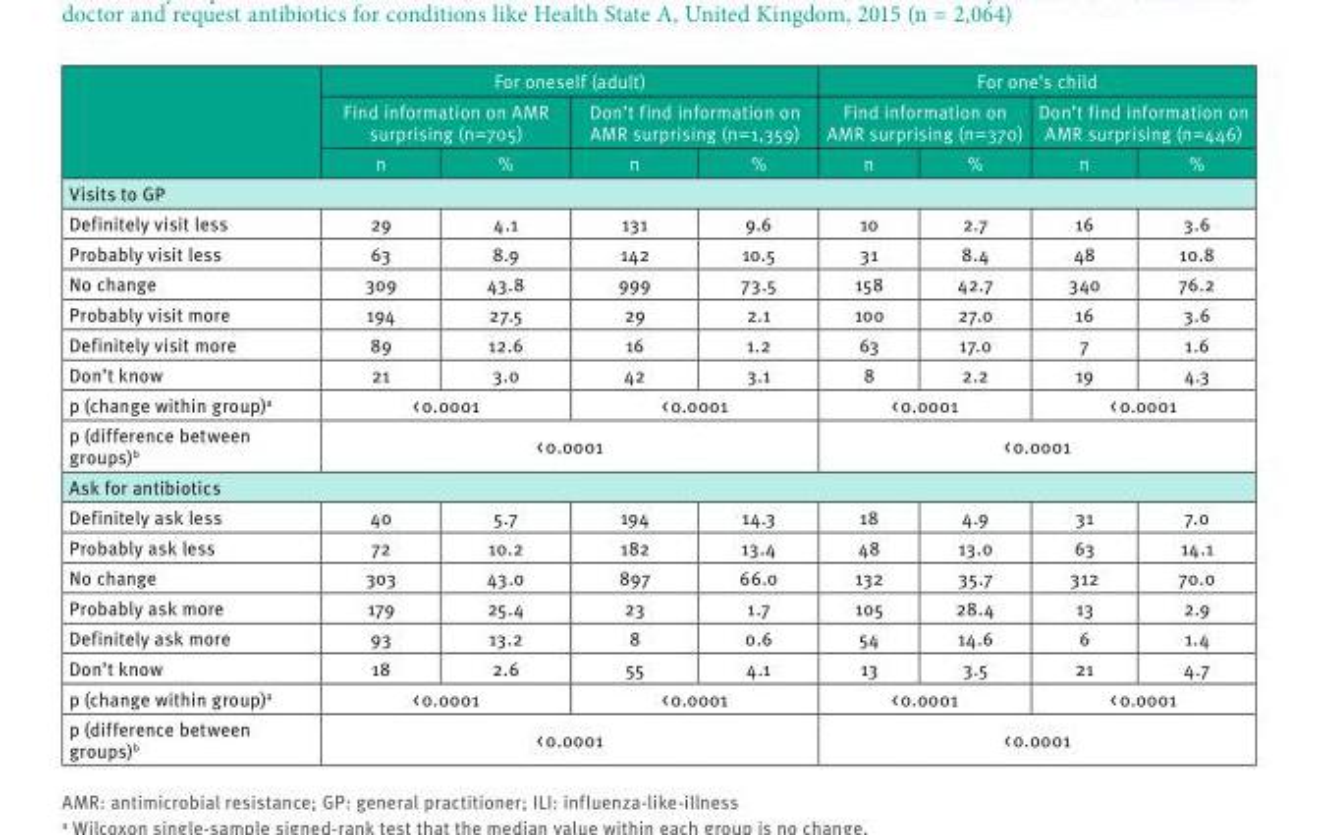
<table><thead><tr><td rowspan="3"></td><td colspan="4">For oneself (adult)</td><td colspan="4">For one’s child</td></tr><tr><td colspan="2">Find information on AMR surprising (n=705)</td><td colspan="2">Don’t find information on AMR surprising (n=1,359)</td><td colspan="2">Find information on AMR surprising (n=370)</td><td colspan="2">Don’t find information on AMR surprising (n=446)</td></tr><tr><td>n</td><td>%</td><td>n</td><td>%</td><td>n</td><td>%</td><td>n</td><td>%</td></tr></thead><tbody><tr><td colspan="9">Visits to GP</td></tr><tr><td>Definitely visit less</td><td>29</td><td>4.1</td><td>131</td><td>9.6</td><td>10</td><td>2.7</td><td>16</td><td>3.6</td></tr><tr><td>Probably visit less</td><td>63</td><td>8.9</td><td>142</td><td>10.5</td><td>31</td><td>8.4</td><td>48</td><td>10.8</td></tr><tr><td>No change</td><td>309</td><td>43.8</td><td>999</td><td>73.5</td><td>158</td><td>42.7</td><td>340</td><td>76.2</td></tr><tr><td>Probably visit more</td><td>194</td><td>27.5</td><td>29</td><td>2.1</td><td>100</td><td>27.0</td><td>16</td><td>3.6</td></tr><tr><td>Definitely visit more</td><td>89</td><td>12.6</td><td>16</td><td>1.2</td><td>63</td><td>17.0</td><td>7</td><td>1.6</td></tr><tr><td>Don’t know</td><td>21</td><td>3.0</td><td>42</td><td>3.1</td><td>8</td><td>2.2</td><td>19</td><td>4.3</td></tr><tr><td>p (change within group)<sup>a</sup></td><td colspan="2">&lt; 0.0001</td><td colspan="2">&lt; 0.0001</td><td colspan="2">&lt; 0.0001</td><td colspan="2">&lt; 0.0001</td></tr><tr><td>p (difference between groups)<sup>b</sup></td><td colspan="4">&lt; 0.0001</td><td colspan="4">&lt; 0.0001</td></tr><tr><td colspan="9">Ask for antibiotics</td></tr><tr><td>Definitely ask less</td><td>40</td><td>5.7</td><td>194</td><td>14.3</td><td>18</td><td>4.9</td><td>31</td><td>7.0</td></tr><tr><td>Probably ask less</td><td>72</td><td>10.2</td><td>182</td><td>13.4</td><td>48</td><td>13.0</td><td>63</td><td>14.1</td></tr><tr><td>No change</td><td>303</td><td>43.0</td><td>897</td><td>66.0</td><td>132</td><td>35.7</td><td>312</td><td>70.0</td></tr><tr><td>Probably ask more</td><td>179</td><td>25.4</td><td>23</td><td>1.7</td><td>105</td><td>28.4</td><td>13</td><td>2.9</td></tr><tr><td>Definitely ask more</td><td>93</td><td>13.2</td><td>8</td><td>0.6</td><td>54</td><td>14.6</td><td>6</td><td>1.4</td></tr><tr><td>Don’t know</td><td>18</td><td>2.6</td><td>55</td><td>4.1</td><td>13</td><td>3.5</td><td>21</td><td>4.7</td></tr><tr><td>p (change within group)<sup>a</sup></td><td colspan="2">&lt; 0.0001</td><td colspan="2">&lt; 0.0001</td><td colspan="2">&lt; 0.0001</td><td colspan="2">&lt; 0.0001</td></tr><tr><td>p (difference between groups)<sup>b</sup></td><td colspan="4">&lt; 0.0001</td><td colspan="4">&lt; 0.0001</td></tr></tbody></table>